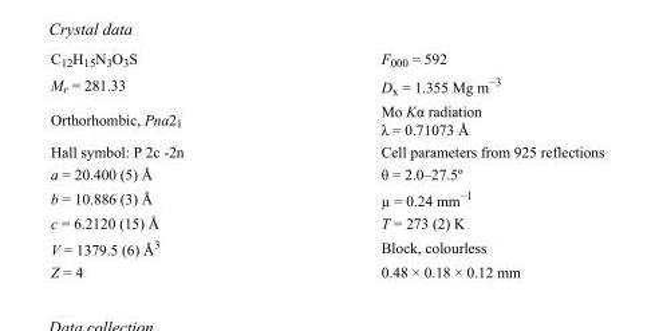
<table><tbody><tr><td>C<sub>12</sub>H<sub>15</sub>N<sub>3</sub>O<sub>3</sub>S</td><td>F<sub>000</sub> = 592</td></tr><tr><td>M<sub>r</sub> = 281.33</td><td>D<sub>x</sub> = 1.355 Mg m<sup>−3</sup></td></tr><tr><td>Orthorhombic, Pna2<sub>1</sub></td><td>Mo Kα radiation λ = 0.71073 Å</td></tr><tr><td>Hall symbol: P 2c -2n</td><td>Cell parameters from 925 reflections</td></tr><tr><td>a = 20.400 (5) Å</td><td>θ = 2.0–27.5º</td></tr><tr><td>b = 10.886 (3) Å</td><td>µ = 0.24 mm<sup>−1</sup></td></tr><tr><td>c = 6.2120 (15) Å</td><td>T = 273 (2) K</td></tr><tr><td>V = 1379.5 (6) Å<sup>3</sup></td><td>Block, colourless</td></tr><tr><td>Z = 4</td><td>0.48 × 0.18 × 0.12 mm</td></tr></tbody></table>